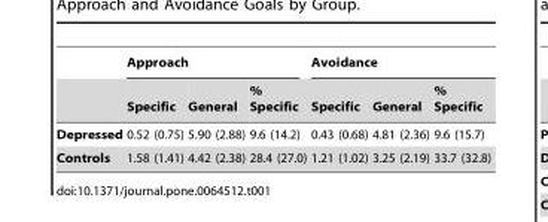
<table><thead><tr><td rowspan="2"></td><td colspan="3">Approach</td><td colspan="3">Avoidance</td></tr><tr><td>Specific</td><td>General</td><td>% Specific</td><td>Specific</td><td>General</td><td>% Specific</td></tr></thead><tbody><tr><td>Depressed</td><td>0.52 (0.75)</td><td>5.90 (2.88)</td><td>9.6 (14.2)</td><td>0.43 (0.68)</td><td>4.81 (2.36)</td><td>9.6 (15.7)</td></tr><tr><td>Controls</td><td>1.58 (1.41)</td><td>4.42 (2.38)</td><td>28.4 (27.0)</td><td>1.21 (1.02)</td><td>3.25 (2.19)</td><td>33.7 (32.8)</td></tr></tbody></table>